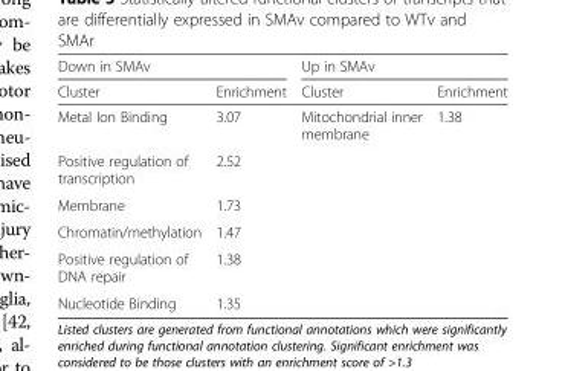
<table><thead><tr><td colspan="2">Down in SMAv</td><td colspan="2">Up in SMAv</td></tr><tr><td>Cluster</td><td>Enrichment</td><td>Cluster</td><td>Enrichment</td></tr></thead><tbody><tr><td>Metal Ion Binding</td><td>3.07</td><td>Mitochondrial inner membrane</td><td>1.38</td></tr><tr><td>Positive regulation of transcription</td><td>2.52</td><td></td><td></td></tr><tr><td>Membrane</td><td>1.73</td><td></td><td></td></tr><tr><td>Chromatin/methylation</td><td>1.47</td><td></td><td></td></tr><tr><td>Positive regulation of DNA repair</td><td>1.38</td><td></td><td></td></tr><tr><td>Nucleotide Binding</td><td>1.35</td><td></td><td></td></tr></tbody></table>